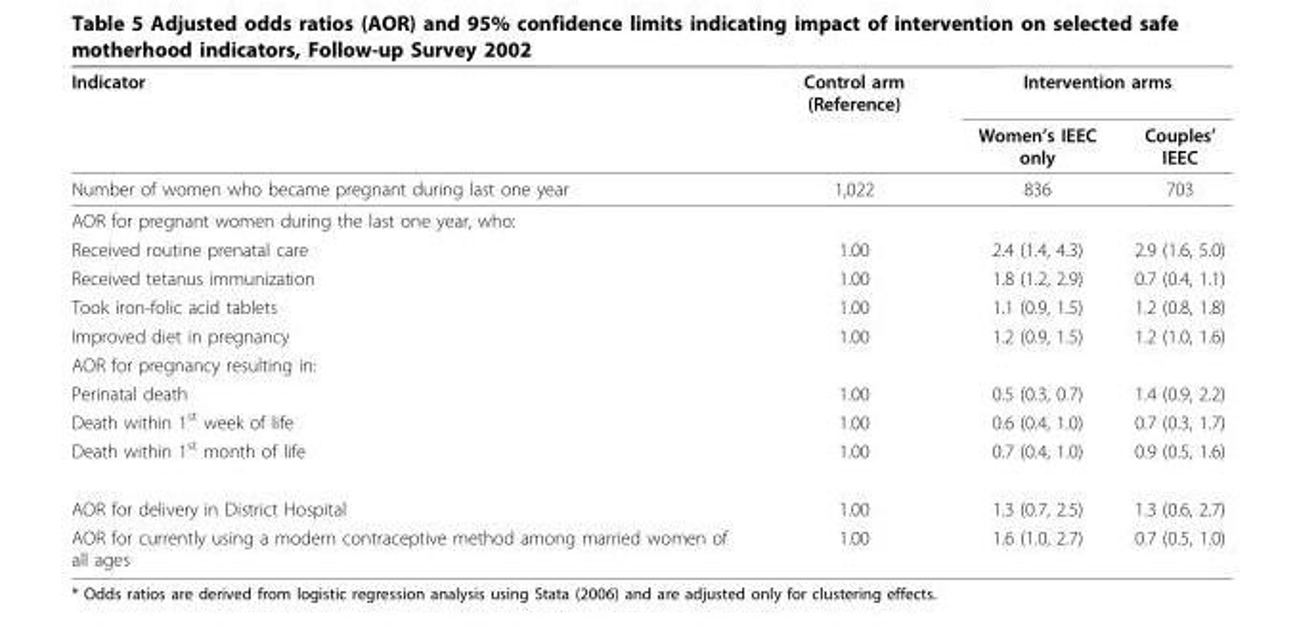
<table><thead><tr><td rowspan="2">Indicator</td><td rowspan="2">Control arm (Reference)</td><td colspan="2">Intervention arms</td></tr><tr><td>Women’s IEEC only</td><td>Couples’ IEEC</td></tr></thead><tbody><tr><td>Number of women who became pregnant during last one year</td><td>1,022</td><td>836</td><td>703</td></tr><tr><td colspan="4">AOR for pregnant women during the last one year, who:</td></tr><tr><td>Received routine prenatal care</td><td>1.00</td><td>2.4 (1.4, 4.3)</td><td>2.9 (1.6, 5.0)</td></tr><tr><td>Received tetanus immunization</td><td>1.00</td><td>1.8 (1.2, 2.9)</td><td>0.7 (0.4, 1.1)</td></tr><tr><td>Took iron-folic acid tablets</td><td>1.00</td><td>1.1 (0.9, 1.5)</td><td>1.2 (0.8, 1.8)</td></tr><tr><td>Improved diet in pregnancy</td><td>1.00</td><td>1.2 (0.9, 1.5)</td><td>1.2 (1.0, 1.6)</td></tr><tr><td colspan="4">AOR for pregnancy resulting in:</td></tr><tr><td>Perinatal death</td><td>1.00</td><td>0.5 (0.3, 0.7)</td><td>1.4 (0.9, 2.2)</td></tr><tr><td>Death within 1<sup>st</sup> week of life</td><td>1.00</td><td>0.6 (0.4, 1.0)</td><td>0.7 (0.3, 1.7)</td></tr><tr><td>Death within 1<sup>st</sup> month of life</td><td>1.00</td><td>0.7 (0.4, 1.0)</td><td>0.9 (0.5, 1.6)</td></tr><tr><td>AOR for delivery in District Hospital</td><td>1.00</td><td>1.3 (0.7, 2.5)</td><td>1.3 (0.6, 2.7)</td></tr><tr><td>AOR for currently using a modern contraceptive method among married women of all ages</td><td>1.00</td><td>1.6 (1.0, 2.7)</td><td>0.7 (0.5, 1.0)</td></tr></tbody></table>